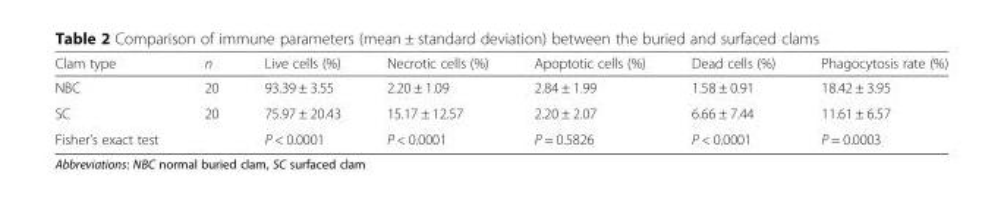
<table><thead><tr><td>Clam type</td><td>n</td><td>Live cells (%)</td><td>Necrotic cells (%)</td><td>Apoptotic cells (%)</td><td>Dead cells (%)</td><td>Phagocytosis rate (%)</td></tr></thead><tbody><tr><td>NBC</td><td>20</td><td>93.39 ± 3.55</td><td>2.20 ± 1.09</td><td>2.84 ± 1.99</td><td>1.58 ± 0.91</td><td>18.42 ± 3.95</td></tr><tr><td>SC</td><td>20</td><td>75.97 ± 20.43</td><td>15.17 ± 12.57</td><td>2.20 ± 2.07</td><td>6.66 ± 7.44</td><td>11.61 ± 6.57</td></tr><tr><td>Fisher’s exact test</td><td></td><td>P &lt; 0.0001</td><td>P &lt; 0.0001</td><td>P = 0.5826</td><td>P &lt; 0.0001</td><td>P = 0.0003</td></tr></tbody></table>